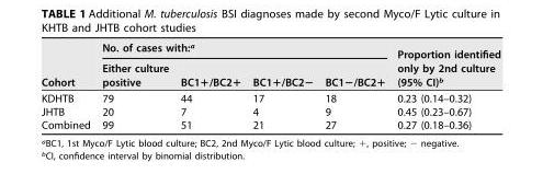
<table><thead><tr><td rowspan="2">Cohort</td><td colspan="4">No. of cases with:<sup>a</sup></td><td rowspan="2">Proportion identified only by 2nd culture (95% CI)<sup>b</sup></td></tr><tr><td>Either culture positive</td><td>BC1+/BC2+</td><td>BC1+/BC2−</td><td>BC1−/BC2+</td></tr></thead><tbody><tr><td>KDHTB</td><td>79</td><td>44</td><td>17</td><td>18</td><td>0.23 (0.14–0.32)</td></tr><tr><td>JHTB</td><td>20</td><td>7</td><td>4</td><td>9</td><td>0.45 (0.23–0.67)</td></tr><tr><td>Combined</td><td>99</td><td>51</td><td>21</td><td>27</td><td>0.27 (0.18–0.36)</td></tr></tbody></table>